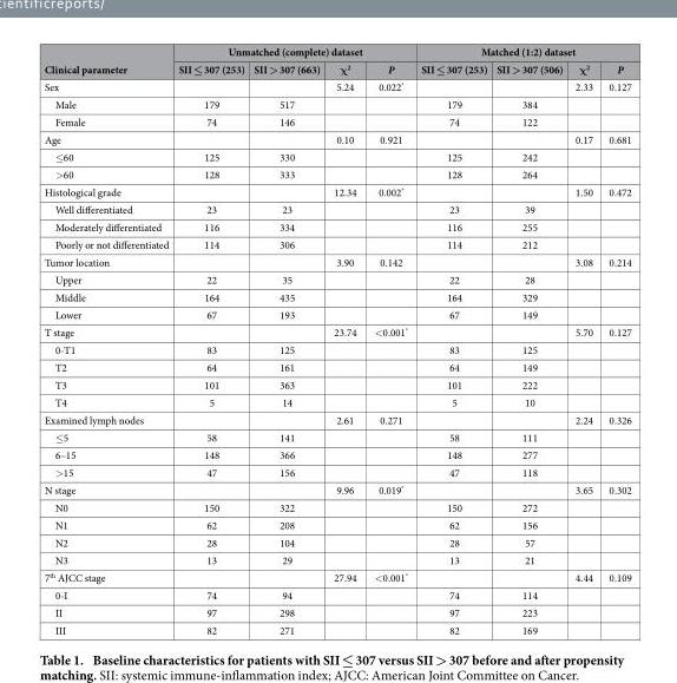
<table><thead><tr><td rowspan="2">Clinical parameter</td><td colspan="4">Unmatched (complete) dataset</td><td colspan="4">Matched (1:2) dataset</td></tr><tr><td>SII ≤ 307 (253)</td><td>SII &gt; 307 (663)</td><td>χ<sup>2</sup></td><td>P</td><td>SII ≤ 307 (253)</td><td>SII &gt; 307 (506)</td><td>χ<sup>2</sup></td><td>P</td></tr></thead><tbody><tr><td>Sex</td><td></td><td></td><td>5.24</td><td>0.022*</td><td></td><td></td><td>2.33</td><td>0.127</td></tr><tr><td>Male</td><td>179</td><td>517</td><td></td><td></td><td>179</td><td>384</td><td></td><td></td></tr><tr><td>Female</td><td>74</td><td>146</td><td></td><td></td><td>74</td><td>122</td><td></td><td></td></tr><tr><td>Age</td><td></td><td></td><td>0.10</td><td>0.921</td><td></td><td></td><td>0.17</td><td>0.681</td></tr><tr><td>≤ 60</td><td>125</td><td>330</td><td></td><td></td><td>125</td><td>242</td><td></td><td></td></tr><tr><td>&gt; 60</td><td>128</td><td>333</td><td></td><td></td><td>128</td><td>264</td><td></td><td></td></tr><tr><td>Histological grade</td><td></td><td></td><td>12.34</td><td>0.002*</td><td></td><td></td><td>1.50</td><td>0.472</td></tr><tr><td>Well differentiated</td><td>23</td><td>23</td><td></td><td></td><td>23</td><td>39</td><td></td><td></td></tr><tr><td>Moderately differentiated</td><td>116</td><td>334</td><td></td><td></td><td>116</td><td>255</td><td></td><td></td></tr><tr><td>Poorly or not differentiated</td><td>114</td><td>306</td><td></td><td></td><td>114</td><td>212</td><td></td><td></td></tr><tr><td>Tumor location</td><td></td><td></td><td>3.90</td><td>0.142</td><td></td><td></td><td>3.08</td><td>0.214</td></tr><tr><td>Upper</td><td>22</td><td>35</td><td></td><td></td><td>22</td><td>28</td><td></td><td></td></tr><tr><td>Middle</td><td>164</td><td>435</td><td></td><td></td><td>164</td><td>329</td><td></td><td></td></tr><tr><td>Lower</td><td>67</td><td>193</td><td></td><td></td><td>67</td><td>149</td><td></td><td></td></tr><tr><td>T stage</td><td></td><td></td><td>23.74</td><td>&lt; 0.001*</td><td></td><td></td><td>5.70</td><td>0.127</td></tr><tr><td>0-T1</td><td>83</td><td>125</td><td></td><td></td><td>83</td><td>125</td><td></td><td></td></tr><tr><td>T2</td><td>64</td><td>161</td><td></td><td></td><td>64</td><td>149</td><td></td><td></td></tr><tr><td>T3</td><td>101</td><td>363</td><td></td><td></td><td>101</td><td>222</td><td></td><td></td></tr><tr><td>T4</td><td>5</td><td>14</td><td></td><td></td><td>5</td><td>10</td><td></td><td></td></tr><tr><td>Examined lymph nodes</td><td></td><td></td><td>2.61</td><td>0.271</td><td></td><td></td><td>2.24</td><td>0.326</td></tr><tr><td>≤ 5</td><td>58</td><td>141</td><td></td><td></td><td>58</td><td>111</td><td></td><td></td></tr><tr><td>6–15</td><td>148</td><td>366</td><td></td><td></td><td>148</td><td>277</td><td></td><td></td></tr><tr><td>&gt; 15</td><td>47</td><td>156</td><td></td><td></td><td>47</td><td>118</td><td></td><td></td></tr><tr><td>N stage</td><td></td><td></td><td>9.96</td><td>0.019*</td><td></td><td></td><td>3.65</td><td>0.302</td></tr><tr><td>N0</td><td>150</td><td>322</td><td></td><td></td><td>150</td><td>272</td><td></td><td></td></tr><tr><td>N1</td><td>62</td><td>208</td><td></td><td></td><td>62</td><td>156</td><td></td><td></td></tr><tr><td>N2</td><td>28</td><td>104</td><td></td><td></td><td>28</td><td>57</td><td></td><td></td></tr><tr><td>N3</td><td>13</td><td>29</td><td></td><td></td><td>13</td><td>21</td><td></td><td></td></tr><tr><td>7<sup>th</sup> AJCC stage</td><td></td><td></td><td>27.94</td><td>&lt; 0.001*</td><td></td><td></td><td>4.44</td><td>0.109</td></tr><tr><td>0-I</td><td>74</td><td>94</td><td></td><td></td><td>74</td><td>114</td><td></td><td></td></tr><tr><td>II</td><td>97</td><td>298</td><td></td><td></td><td>97</td><td>223</td><td></td><td></td></tr><tr><td>III</td><td>82</td><td>271</td><td></td><td></td><td>82</td><td>169</td><td></td><td></td></tr></tbody></table>